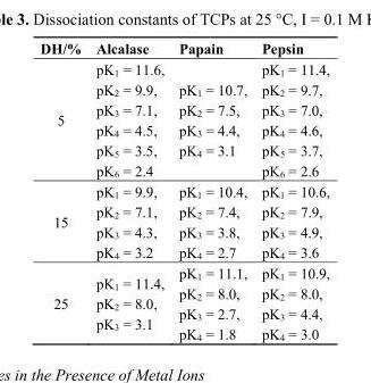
<table><thead><tr><td>DH/%</td><td>Alcalase</td><td>Papain</td><td>Pepsin</td></tr></thead><tbody><tr><td>5</td><td>pK<sub>1</sub> = 11.6, pK<sub>2</sub> = 9.9, pK<sub>3</sub> = 7.1, pK<sub>4</sub> = 4.5, pK<sub>5</sub> = 3.5, pK<sub>6</sub> = 2.4</td><td>pK<sub>1</sub> = 10.7, pK<sub>2</sub> = 7.5, pK<sub>3</sub> = 4.4, pK<sub>4</sub> = 3.1</td><td>pK<sub>1</sub> = 11.4, pK<sub>2</sub> = 9.7, pK<sub>3</sub> = 7.0, pK<sub>4</sub> = 4.6, pK<sub>5</sub> = 3.7, pK<sub>6</sub> = 2.6</td></tr><tr><td>15</td><td>pK<sub>1</sub> = 9.9, pK<sub>2</sub> = 7.1, pK<sub>3</sub> = 4.3, pK<sub>4</sub> = 3.2</td><td>pK<sub>1</sub> = 10.4, pK<sub>2</sub> = 7.4, pK<sub>3</sub> = 3.8, pK<sub>4</sub> = 2.7</td><td>pK<sub>1</sub> = 10.6, pK<sub>2</sub> = 7.9, pK<sub>3</sub> = 4.9, pK<sub>4</sub> = 3.6</td></tr><tr><td>25</td><td>pK<sub>1</sub> = 11.4, pK<sub>2</sub> = 8.0, pK<sub>3</sub> = 3.1</td><td>pK<sub>1</sub> = 11.1, pK<sub>2</sub> = 8.0, pK<sub>3</sub> = 2.7, pK<sub>4</sub> = 1.8</td><td>pK<sub>1</sub> = 10.9, pK<sub>2</sub> = 8.0, pK<sub>3</sub> = 4.4, pK<sub>4</sub> = 3.0</td></tr></tbody></table>